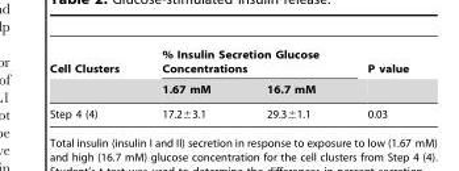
<table><thead><tr><td rowspan="2">Cell Clusters</td><td colspan="2">% Insulin Secretion Glucose Concentrations</td><td rowspan="2">P value</td></tr><tr><td>1.67 mM</td><td>16.7 mM</td></tr></thead><tbody><tr><td>Step 4 (4)</td><td>17.2±3.1</td><td>29.3±1.1</td><td>0.03</td></tr></tbody></table>